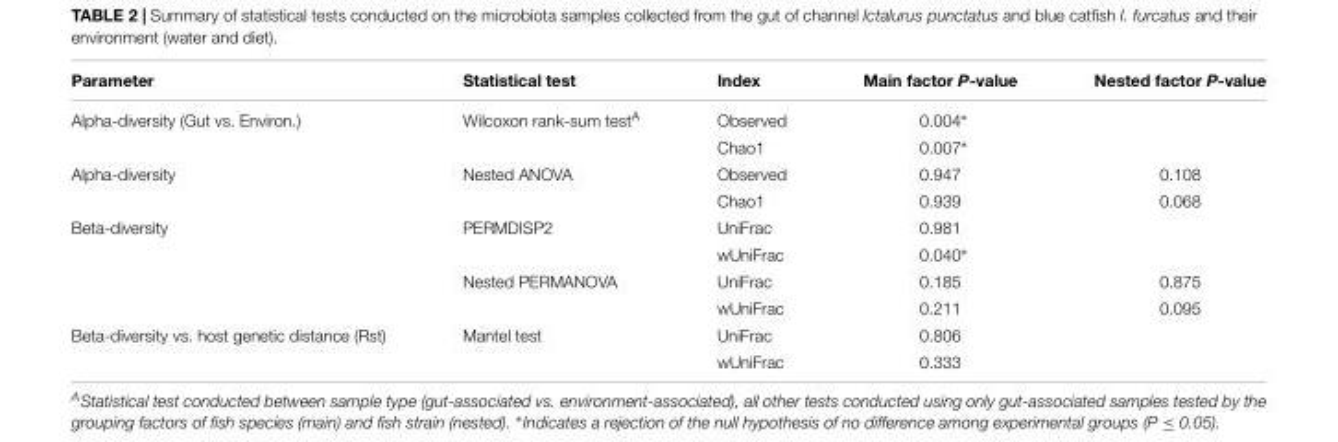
<table><thead><tr><td>Parameter</td><td>Statistical test</td><td>Index</td><td>Main factor P-value</td><td>Nested factor P-value</td></tr></thead><tbody><tr><td rowspan="2">Alpha-diversity (Gut vs. Environ.)</td><td>Wilcoxon rank-sum test<sup>A</sup></td><td>Observed</td><td>0.004∗</td><td></td></tr><tr><td></td><td>Chao1</td><td>0.007∗</td><td></td></tr><tr><td rowspan="2">Alpha-diversity</td><td>Nested ANOVA</td><td>Observed</td><td>0.947</td><td>0.108</td></tr><tr><td></td><td>Chao1</td><td>0.939</td><td>0.068</td></tr><tr><td rowspan="4">Beta-diversity</td><td>PERMDISP2</td><td>UniFrac</td><td>0.981</td><td></td></tr><tr><td></td><td>wUniFrac</td><td>0.040∗</td><td></td></tr><tr><td>Nested PERMANOVA</td><td>UniFrac</td><td>0.185</td><td>0.875</td></tr><tr><td></td><td>wUniFrac</td><td>0.211</td><td>0.095</td></tr><tr><td rowspan="2">Beta-diversity vs. host genetic distance (Rst)</td><td>Mantel test</td><td>UniFrac</td><td>0.806</td><td></td></tr><tr><td></td><td>wUniFrac</td><td>0.333</td><td></td></tr></tbody></table>